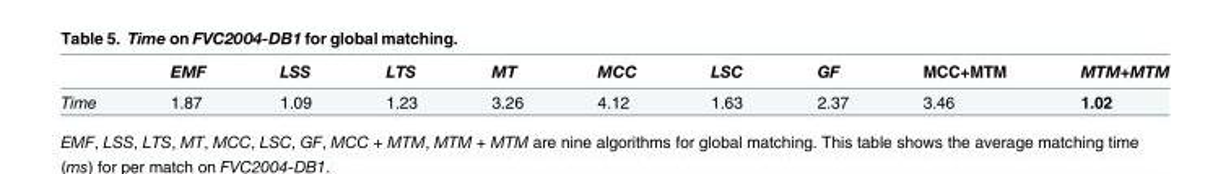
<table><thead><tr><td></td><td>EMF</td><td>LSS</td><td>LTS</td><td>MT</td><td>MCC</td><td>LSC</td><td>GF</td><td>MCC+MTM</td><td>MTM+MTM</td></tr></thead><tbody><tr><td>Time</td><td>1.87</td><td>1.09</td><td>1.23</td><td>3.26</td><td>4.12</td><td>1.63</td><td>2.37</td><td>3.46</td><td>1.02</td></tr></tbody></table>